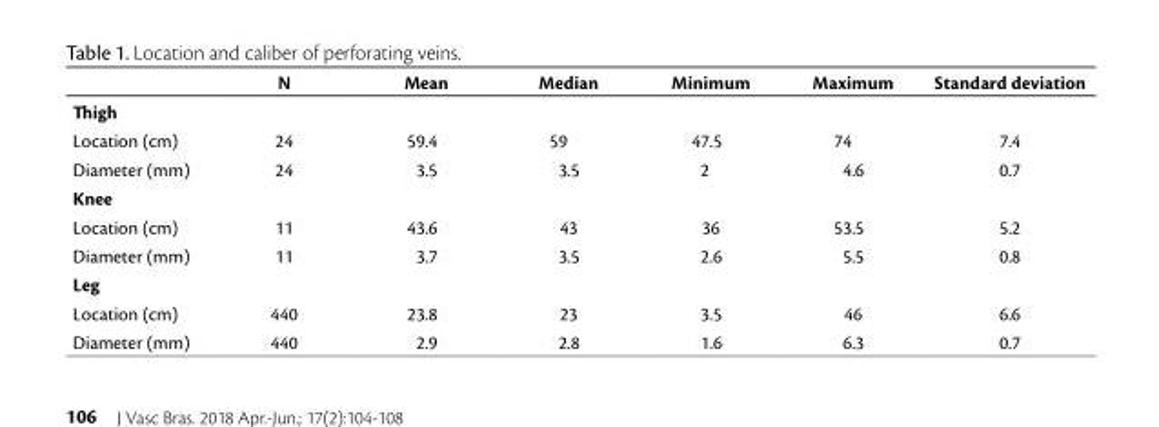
<table><thead><tr><td></td><td>N</td><td>Mean</td><td>Median</td><td>Minimum</td><td>Maximum</td><td>Standard deviation</td></tr></thead><tbody><tr><td colspan="7">Thigh</td></tr><tr><td>Location (cm)</td><td>24</td><td>59.4</td><td>59</td><td>47.5</td><td>74</td><td>7.4</td></tr><tr><td>Diameter (mm)</td><td>24</td><td>3.5</td><td>3.5</td><td>2</td><td>4.6</td><td>0.7</td></tr><tr><td colspan="7">Knee</td></tr><tr><td>Location (cm)</td><td>11</td><td>43.6</td><td>43</td><td>36</td><td>53.5</td><td>5.2</td></tr><tr><td>Diameter (mm)</td><td>11</td><td>3.7</td><td>3.5</td><td>2.6</td><td>5.5</td><td>0.8</td></tr><tr><td colspan="7">Leg</td></tr><tr><td>Location (cm)</td><td>440</td><td>23.8</td><td>23</td><td>3.5</td><td>46</td><td>6.6</td></tr><tr><td>Diameter (mm)</td><td>440</td><td>2.9</td><td>2.8</td><td>1.6</td><td>6.3</td><td>0.7</td></tr></tbody></table>